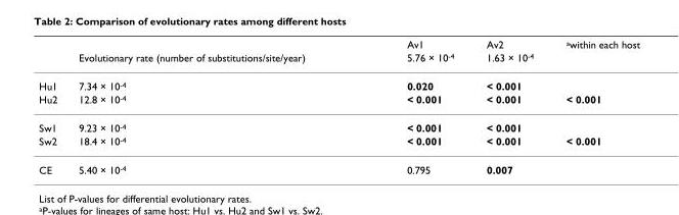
<table><thead><tr><td rowspan="2"></td><td rowspan="2">Evolutionary rate (number of substitutions/site/year)</td><td rowspan="2">Av1 5.76 × 10<sup>-4</sup></td><td rowspan="2">Av2 1.63 × 10<sup>-4</sup></td><td rowspan="2"><sup>a</sup>within each host</td></tr><tr></tr></thead><tbody><tr><td>Hu1</td><td>7.34 × 10<sup>-4</sup></td><td>0.020</td><td>&lt; 0.001</td><td></td></tr><tr><td>Hu2</td><td>12.8 × 10<sup>-4</sup></td><td>&lt; 0.001</td><td>&lt; 0.001</td><td>&lt; 0.001</td></tr><tr><td>Sw1</td><td>9.23 × 10<sup>-4</sup></td><td>&lt; 0.001</td><td>&lt; 0.001</td><td></td></tr><tr><td>Sw2</td><td>18.4 × 10<sup>-4</sup></td><td>&lt; 0.001</td><td>&lt; 0.001</td><td>&lt; 0.001</td></tr><tr><td>CE</td><td>5.40 × 10<sup>-4</sup></td><td>0.795</td><td>0.007</td><td></td></tr></tbody></table>